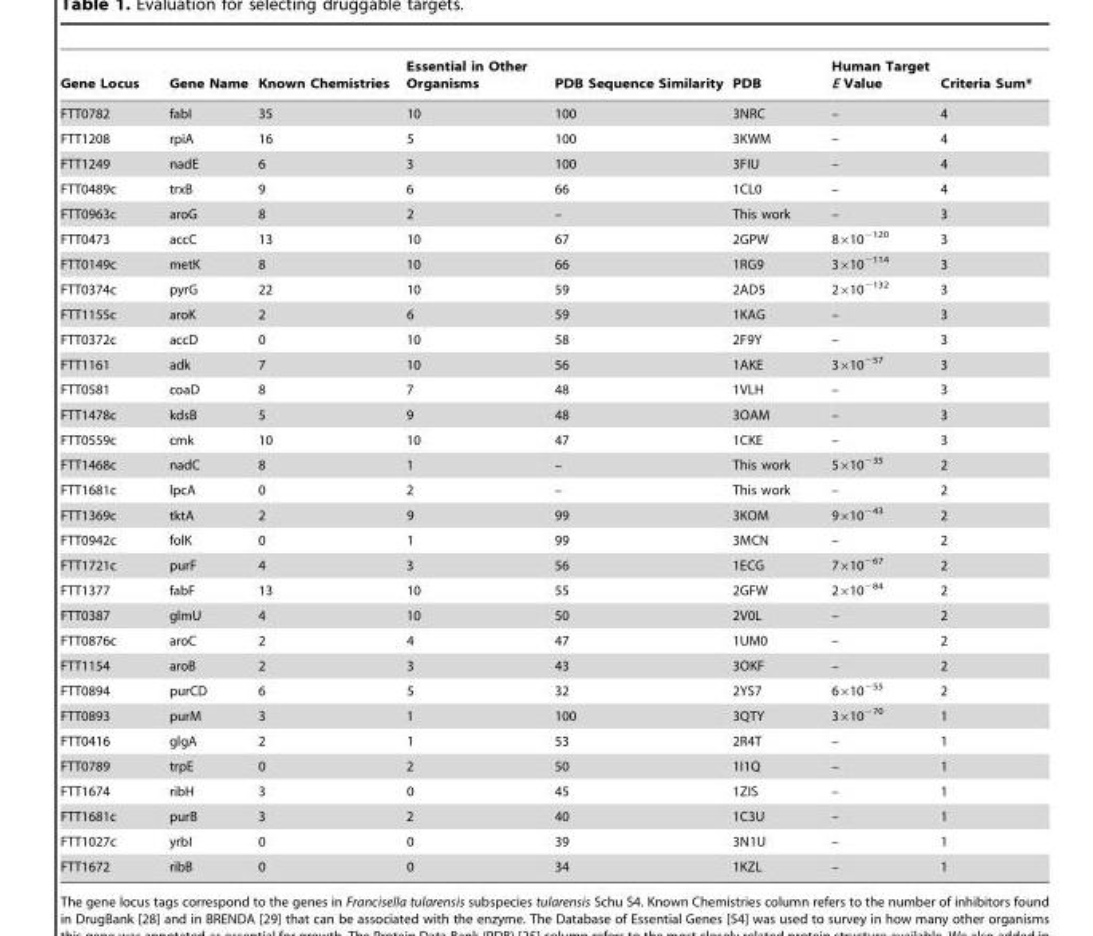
<table><thead><tr><td>Gene Locus</td><td>Gene Name</td><td>Known Chemistries</td><td>Essential in Other Organisms</td><td>PDB Sequence Similarity</td><td>PDB</td><td>Human Target E Value</td><td>Criteria Sum*</td></tr></thead><tbody><tr><td>FTT0782</td><td>fabI</td><td>35</td><td>10</td><td>100</td><td>3NRC</td><td>–</td><td>4</td></tr><tr><td>FTT1208</td><td>rpiA</td><td>16</td><td>5</td><td>100</td><td>3KWM</td><td>–</td><td>4</td></tr><tr><td>FTT1249</td><td>nadE</td><td>6</td><td>3</td><td>100</td><td>3FIU</td><td>–</td><td>4</td></tr><tr><td>FTT0489c</td><td>trxB</td><td>9</td><td>6</td><td>66</td><td>1CL0</td><td>–</td><td>4</td></tr><tr><td>FTT0963c</td><td>aroG</td><td>8</td><td>2</td><td>–</td><td>This work</td><td>–</td><td>3</td></tr><tr><td>FTT0473</td><td>accC</td><td>13</td><td>10</td><td>67</td><td>2GPW</td><td>8×10<sup>−120</sup></td><td>3</td></tr><tr><td>FTT0149c</td><td>metK</td><td>8</td><td>10</td><td>66</td><td>1RG9</td><td>3×10<sup>−114</sup></td><td>3</td></tr><tr><td>FTT0374c</td><td>pyrG</td><td>22</td><td>10</td><td>59</td><td>2AD5</td><td>2×10<sup>−132</sup></td><td>3</td></tr><tr><td>FTT1155c</td><td>aroK</td><td>2</td><td>6</td><td>59</td><td>1KAG</td><td>–</td><td>3</td></tr><tr><td>FTT0372c</td><td>accD</td><td>0</td><td>10</td><td>58</td><td>2F9Y</td><td>–</td><td>3</td></tr><tr><td>FTT1161</td><td>adk</td><td>7</td><td>10</td><td>56</td><td>1AKE</td><td>3×10<sup>−57</sup></td><td>3</td></tr><tr><td>FTT0581</td><td>coaD</td><td>8</td><td>7</td><td>48</td><td>1VLH</td><td>–</td><td>3</td></tr><tr><td>FTT1478c</td><td>kdsB</td><td>5</td><td>9</td><td>48</td><td>3OAM</td><td>–</td><td>3</td></tr><tr><td>FTT0559c</td><td>cmk</td><td>10</td><td>10</td><td>47</td><td>1CKE</td><td>–</td><td>3</td></tr><tr><td>FTT1468c</td><td>nadC</td><td>8</td><td>1</td><td>–</td><td>This work</td><td>5×10<sup>−35</sup></td><td>2</td></tr><tr><td>FTT1681c</td><td>lpcA</td><td>0</td><td>2</td><td>–</td><td>This work</td><td>–</td><td>2</td></tr><tr><td>FTT1369c</td><td>tktA</td><td>2</td><td>9</td><td>99</td><td>3KOM</td><td>9×10<sup>−43</sup></td><td>2</td></tr><tr><td>FTT0942c</td><td>folK</td><td>0</td><td>1</td><td>99</td><td>3MCN</td><td>–</td><td>2</td></tr><tr><td>FTT1721c</td><td>purF</td><td>4</td><td>3</td><td>56</td><td>1ECG</td><td>7×10<sup>−67</sup></td><td>2</td></tr><tr><td>FTT1377</td><td>fabF</td><td>13</td><td>10</td><td>55</td><td>2GFW</td><td>2×10<sup>−84</sup></td><td>2</td></tr><tr><td>FTT0387</td><td>glmU</td><td>4</td><td>10</td><td>50</td><td>2V0L</td><td>–</td><td>2</td></tr><tr><td>FTT0876c</td><td>aroC</td><td>2</td><td>4</td><td>47</td><td>1UM0</td><td>–</td><td>2</td></tr><tr><td>FTT1154</td><td>aroB</td><td>2</td><td>3</td><td>43</td><td>3OKF</td><td>–</td><td>2</td></tr><tr><td>FTT0894</td><td>purCD</td><td>6</td><td>5</td><td>32</td><td>2YS7</td><td>6×10<sup>−55</sup></td><td>2</td></tr><tr><td>FTT0893</td><td>purM</td><td>3</td><td>1</td><td>100</td><td>3QTY</td><td>3×10<sup>−70</sup></td><td>1</td></tr><tr><td>FTT0416</td><td>glgA</td><td>2</td><td>1</td><td>53</td><td>2R4T</td><td>–</td><td>1</td></tr><tr><td>FTT0789</td><td>trpE</td><td>0</td><td>2</td><td>50</td><td>1I1Q</td><td>–</td><td>1</td></tr><tr><td>FTT1674</td><td>ribH</td><td>3</td><td>0</td><td>45</td><td>1ZIS</td><td>–</td><td>1</td></tr><tr><td>FTT1681c</td><td>purB</td><td>3</td><td>2</td><td>40</td><td>1C3U</td><td>–</td><td>1</td></tr><tr><td>FTT1027c</td><td>yrbI</td><td>0</td><td>0</td><td>39</td><td>3N1U</td><td>–</td><td>1</td></tr><tr><td>FTT1672</td><td>ribB</td><td>0</td><td>0</td><td>34</td><td>1KZL</td><td>–</td><td>1</td></tr></tbody></table>